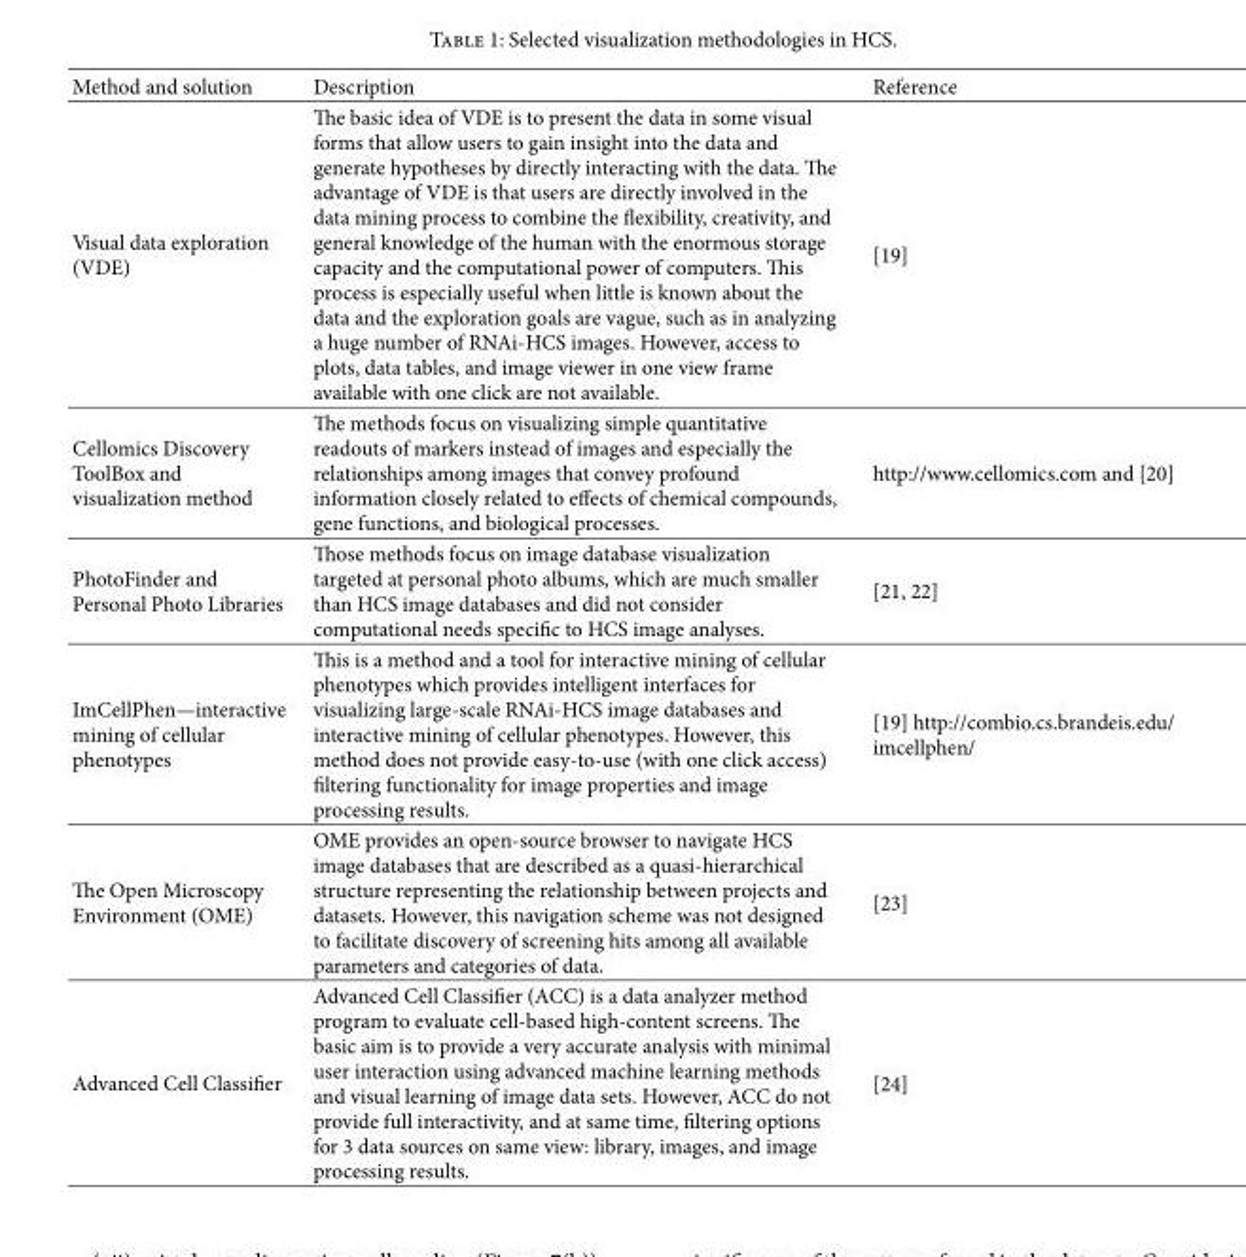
<table><thead><tr><td>Method and solution</td><td>Description</td><td>Reference</td></tr></thead><tbody><tr><td>Visual data exploration (VDE)</td><td>e basic idea of VDE is to present the data in some visual forms that allow users to gain insight into the data and generate hypotheses by directly interacting with the data. e advantage of VDE is that users are directly involved in the data mining process to combine the �exibility, creativity, and general knowledge of the human with the enormous storage capacity and the computational power of computers. is process is especially useful when little is known about the data and the exploration goals are vague, such as in analyzing a huge number of RNAi-HCS images. However, access to plots, data tables, and image viewer in one view frame available with one click are not available.</td><td>[19]</td></tr><tr><td>Cellomics Discovery ToolBox and visualization method</td><td>e methods focus on visualizing simple quantitative readouts of markers instead of images and especially the relationships among images that convey profound information closely related to effects of chemical compounds, gene functions, and biological processes.</td><td>http://www.cellomics.com and [20]</td></tr><tr><td>PhotoFinder and Personal Photo Libraries</td><td>ose methods focus on image database visualization targeted at personal photo albums, which are much smaller than HCS image databases and did not consider computational needs speci�c to HCS image analyses.</td><td>[21, 22]</td></tr><tr><td>ImCellPhen—interactive mining of cellular phenotypes</td><td>is is a method and a tool for interactive mining of cellular phenotypes which provides intelligent interfaces for visualizing large-scale RNAi-HCS image databases and interactive mining of cellular phenotypes. However, this method does not provide easy-to-use (with one click access) �ltering functionality for image properties and image processing results.</td><td>[19] http://combio.cs.brandeis.edu/ imcellphen/</td></tr><tr><td>e Open Microscopy Environment (OME)</td><td>OME provides an open-source browser to navigate HCS image databases that are described as a quasi-hierarchical structure representing the relationship between projects and datasets. However, this navigation scheme was not designed to facilitate discovery of screening hits among all available parameters and categories of data.</td><td>[23]</td></tr><tr><td>Advanced Cell Classi�er</td><td>Advanced Cell Classi�er (ACC) is a data analyzer method program to evaluate cell-based high-content screens. e basic aim is to provide a very accurate analysis with minimal user interaction using advanced machine learning methods and visual learning of image data sets. However, ACC do not provide full interactivity, and at same time, �ltering options for 3 data sources on same view: library, images, and image processing results.</td><td>[24]</td></tr></tbody></table>